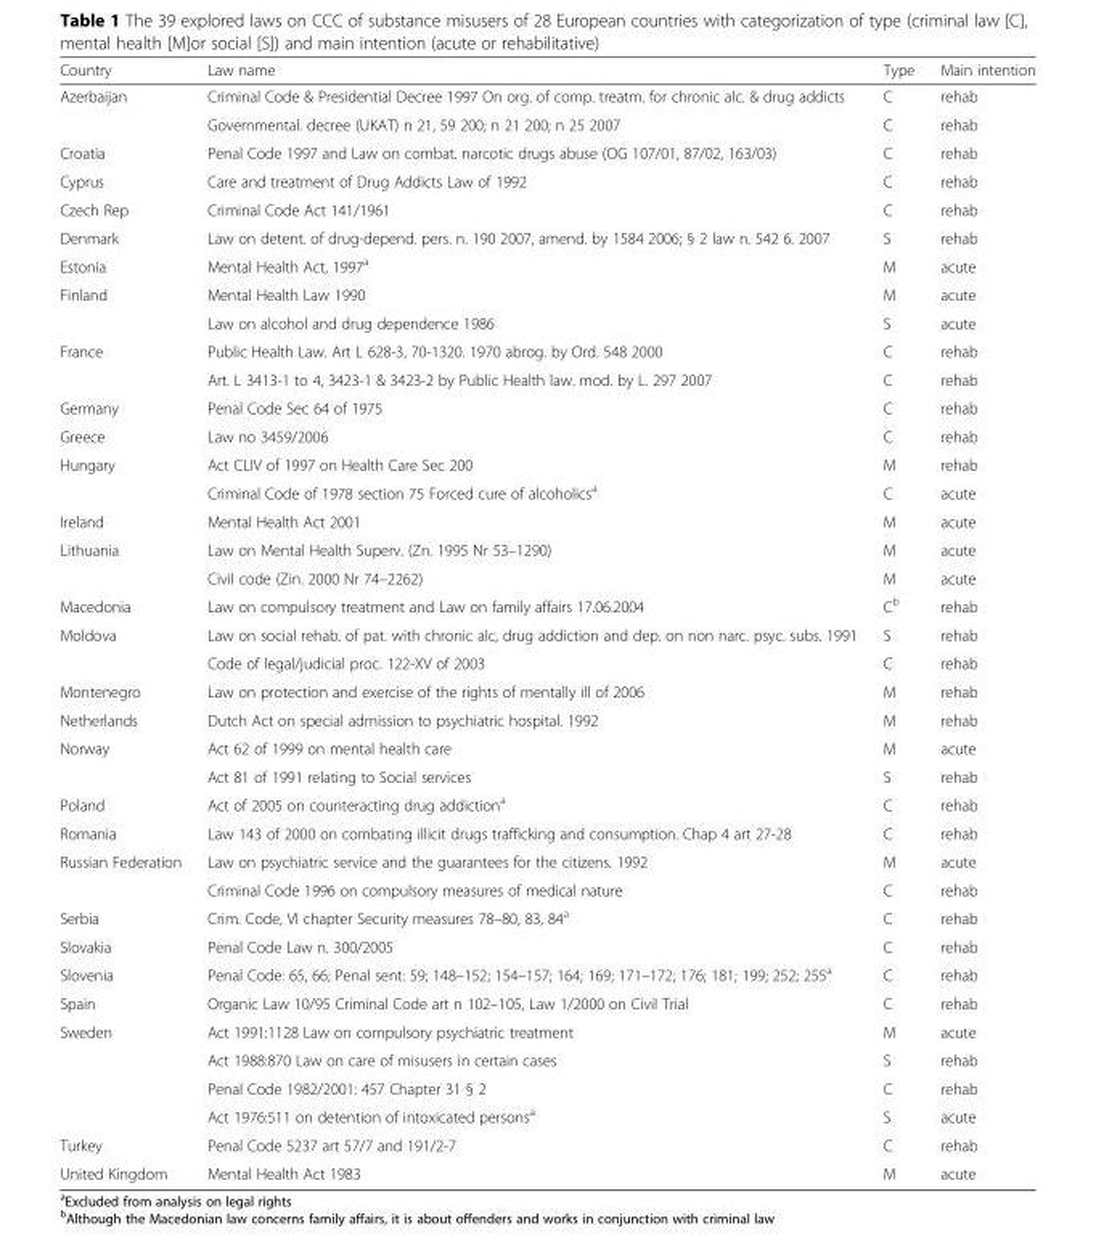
<table><thead><tr><td>Country</td><td>Law name</td><td>Type</td><td>Main intention</td></tr></thead><tbody><tr><td rowspan="2">Azerbaijan</td><td>Criminal Code &amp; Presidential Decree 1997 On org. of comp. treatm. for chronic alc. &amp; drug addicts</td><td>C</td><td>rehab</td></tr><tr><td>Governmental. decree (UKAT) n 21, 59 200; n 21 200; n 25 2007</td><td>C</td><td>rehab</td></tr><tr><td>Croatia</td><td>Penal Code 1997 and Law on combat. narcotic drugs abuse (OG 107/01, 87/02, 163/03)</td><td>C</td><td>rehab</td></tr><tr><td>Cyprus</td><td>Care and treatment of Drug Addicts Law of 1992</td><td>C</td><td>rehab</td></tr><tr><td>Czech Rep</td><td>Criminal Code Act 141/1961</td><td>C</td><td>rehab</td></tr><tr><td>Denmark</td><td>Law on detent. of drug-depend. pers. n. 190 2007, amend. by 1584 2006; § 2 law n. 542 6. 2007</td><td>S</td><td>rehab</td></tr><tr><td>Estonia</td><td>Mental Health Act, 1997<sup>a</sup></td><td>M</td><td>acute</td></tr><tr><td rowspan="2">Finland</td><td>Mental Health Law 1990</td><td>M</td><td>acute</td></tr><tr><td>Law on alcohol and drug dependence 1986</td><td>S</td><td>acute</td></tr><tr><td rowspan="2">France</td><td>Public Health Law. Art L 628-3, 70-1320. 1970 abrog. by Ord. 548 2000</td><td>C</td><td>rehab</td></tr><tr><td>Art. L 3413-1 to 4, 3423-1 &amp; 3423-2 by Public Health law. mod. by L. 297 2007</td><td>C</td><td>rehab</td></tr><tr><td>Germany</td><td>Penal Code Sec 64 of 1975</td><td>C</td><td>rehab</td></tr><tr><td>Greece</td><td>Law no 3459/2006</td><td>C</td><td>rehab</td></tr><tr><td rowspan="2">Hungary</td><td>Act CLIV of 1997 on Health Care Sec 200</td><td>M</td><td>rehab</td></tr><tr><td>Criminal Code of 1978 section 75 Forced cure of alcoholics<sup>a</sup></td><td>C</td><td>acute</td></tr><tr><td>Ireland</td><td>Mental Health Act 2001</td><td>M</td><td>acute</td></tr><tr><td rowspan="2">Lithuania</td><td>Law on Mental Health Superv. (Zn. 1995 Nr 53–1290)</td><td>M</td><td>acute</td></tr><tr><td>Civil code (Zin. 2000 Nr 74–2262)</td><td>M</td><td>acute</td></tr><tr><td>Macedonia</td><td>Law on compulsory treatment and Law on family affairs 17.06.2004</td><td>C<sup>b</sup></td><td>rehab</td></tr><tr><td rowspan="2">Moldova</td><td>Law on social rehab. of pat. with chronic alc, drug addiction and dep. on non narc. psyc. subs. 1991</td><td>S</td><td>rehab</td></tr><tr><td>Code of legal/judicial proc. 122-XV of 2003</td><td>C</td><td>rehab</td></tr><tr><td>Montenegro</td><td>Law on protection and exercise of the rights of mentally ill of 2006</td><td>M</td><td>rehab</td></tr><tr><td>Netherlands</td><td>Dutch Act on special admission to psychiatric hospital. 1992</td><td>M</td><td>rehab</td></tr><tr><td rowspan="2">Norway</td><td>Act 62 of 1999 on mental health care</td><td>M</td><td>acute</td></tr><tr><td>Act 81 of 1991 relating to Social services</td><td>S</td><td>rehab</td></tr><tr><td>Poland</td><td>Act of 2005 on counteracting drug addiction<sup>a</sup></td><td>C</td><td>rehab</td></tr><tr><td>Romania</td><td>Law 143 of 2000 on combating illicit drugs trafficking and consumption. Chap 4 art 27-28</td><td>C</td><td>rehab</td></tr><tr><td rowspan="2">Russian Federation</td><td>Law on psychiatric service and the guarantees for the citizens. 1992</td><td>M</td><td>acute</td></tr><tr><td>Criminal Code 1996 on compulsory measures of medical nature</td><td>C</td><td>rehab</td></tr><tr><td>Serbia</td><td>Crim. Code, VI chapter Security measures 78–80, 83, 84<sup>a</sup></td><td>C</td><td>rehab</td></tr><tr><td>Slovakia</td><td>Penal Code Law n. 300/2005</td><td>C</td><td>rehab</td></tr><tr><td>Slovenia</td><td>Penal Code: 65, 66; Penal sent: 59; 148–152; 154–157; 164; 169; 171–172; 176; 181; 199; 252; 255<sup>a</sup></td><td>C</td><td>rehab</td></tr><tr><td>Spain</td><td>Organic Law 10/95 Criminal Code art n 102–105, Law 1/2000 on Civil Trial</td><td>C</td><td>rehab</td></tr><tr><td rowspan="4">Sweden</td><td>Act 1991:1128 Law on compulsory psychiatric treatment</td><td>M</td><td>acute</td></tr><tr><td>Act 1988:870 Law on care of misusers in certain cases</td><td>S</td><td>rehab</td></tr><tr><td>Penal Code 1982/2001: 457 Chapter 31 § 2</td><td>C</td><td>rehab</td></tr><tr><td>Act 1976:511 on detention of intoxicated persons<sup>a</sup></td><td>S</td><td>acute</td></tr><tr><td>Turkey</td><td>Penal Code 5237 art 57/7 and 191/2-7</td><td>C</td><td>rehab</td></tr><tr><td>United Kingdom</td><td>Mental Health Act 1983</td><td>M</td><td>acute</td></tr></tbody></table>